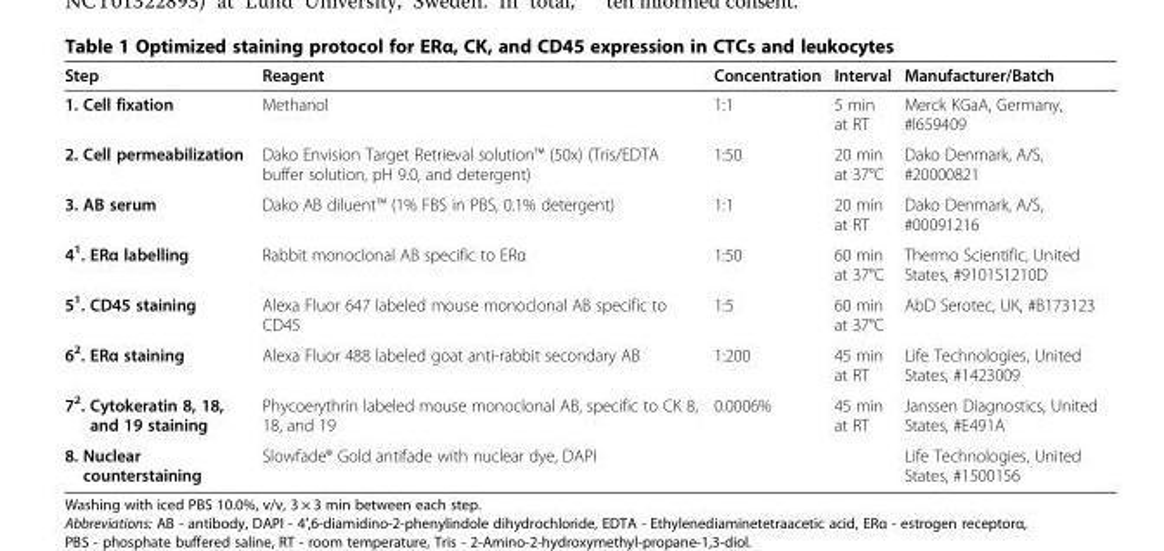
<table><thead><tr><td>Step</td><td>Reagent</td><td>Concentration</td><td>Interval</td><td>Manufacturer/Batch</td></tr></thead><tbody><tr><td>1. Cell fixation</td><td>Methanol</td><td>1:1</td><td>5 min at RT</td><td>Merck KGaA, Germany, #I659409</td></tr><tr><td>2. Cell permeabilization</td><td>Dako Envision Target Retrieval solution™ (50x) (Tris/EDTA buffer solution, pH 9.0, and detergent)</td><td>1:50</td><td>20 min at 37°C</td><td>Dako Denmark, A/S, #20000821</td></tr><tr><td>3. AB serum</td><td>Dako AB diluent™ (1% FBS in PBS, 0.1% detergent)</td><td>1:1</td><td>20 min at RT</td><td>Dako Denmark, A/S, #00091216</td></tr><tr><td>4<sup>1</sup>. ERα labelling</td><td>Rabbit monoclonal AB specific to ERα</td><td>1:50</td><td>60 min at 37°C</td><td>Thermo Scientific, United States, #9101S1210D</td></tr><tr><td>5<sup>1</sup>. CD45 staining</td><td>Alexa Fluor 647 labeled mouse monoclonal AB specific to CD45</td><td>1:5</td><td>60 min at 37°C</td><td>AbD Serotec, UK, #B173123</td></tr><tr><td>6<sup>2</sup>. ERα staining</td><td>Alexa Fluor 488 labeled goat anti-rabbit secondary AB</td><td>1:200</td><td>45 min at RT</td><td>Life Technologies, United States, #1423009</td></tr><tr><td>7<sup>2</sup>. Cytokeratin 8, 18, and 19 staining</td><td>Phycoerythrin labeled mouse monoclonal AB, specific to CK 8, 18, and 19</td><td>0.0006%</td><td>45 min at RT</td><td>Janssen Diagnostics, United States, #E491A</td></tr><tr><td>8. Nuclear counterstaining</td><td>Slowfade® Gold antifade with nuclear dye, DAPI</td><td></td><td></td><td>Life Technologies, United States, #1500156</td></tr></tbody></table>